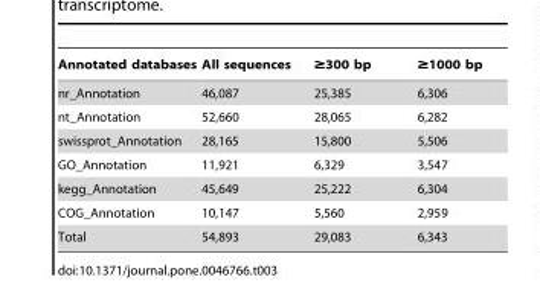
<table><thead><tr><td>Annotated databases</td><td>All sequences</td><td>≥300 bp</td><td>≥1000 bp</td></tr></thead><tbody><tr><td>nr_Annotation</td><td>46,087</td><td>25,385</td><td>6,306</td></tr><tr><td>nt_Annotation</td><td>52,660</td><td>28,065</td><td>6,282</td></tr><tr><td>swissprot_Annotation</td><td>28,165</td><td>15,800</td><td>5,506</td></tr><tr><td>GO_Annotation</td><td>11,921</td><td>6,329</td><td>3,547</td></tr><tr><td>kegg_Annotation</td><td>45,649</td><td>25,222</td><td>6,304</td></tr><tr><td>COG_Annotation</td><td>10,147</td><td>5,560</td><td>2,959</td></tr><tr><td>Total</td><td>54,893</td><td>29,083</td><td>6,343</td></tr></tbody></table>